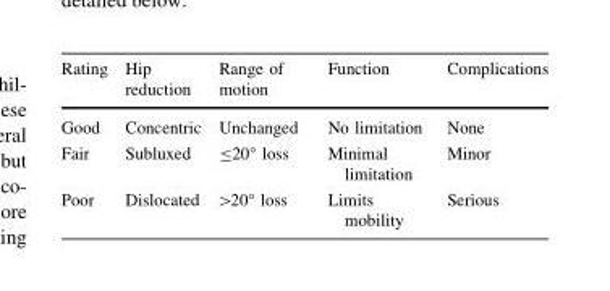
<table><thead><tr><td>Rating</td><td>Hip reduction</td><td>Range of motion</td><td>Function</td><td>Complications</td></tr></thead><tbody><tr><td>Good</td><td>Concentric</td><td>Unchanged</td><td>No limitation</td><td>None</td></tr><tr><td>Fair</td><td>Subluxed</td><td>≤20° loss</td><td>Minimal limitation</td><td>Minor</td></tr><tr><td>Poor</td><td>Dislocated</td><td>&gt;20° loss</td><td>Limits mobility</td><td>Serious</td></tr></tbody></table>